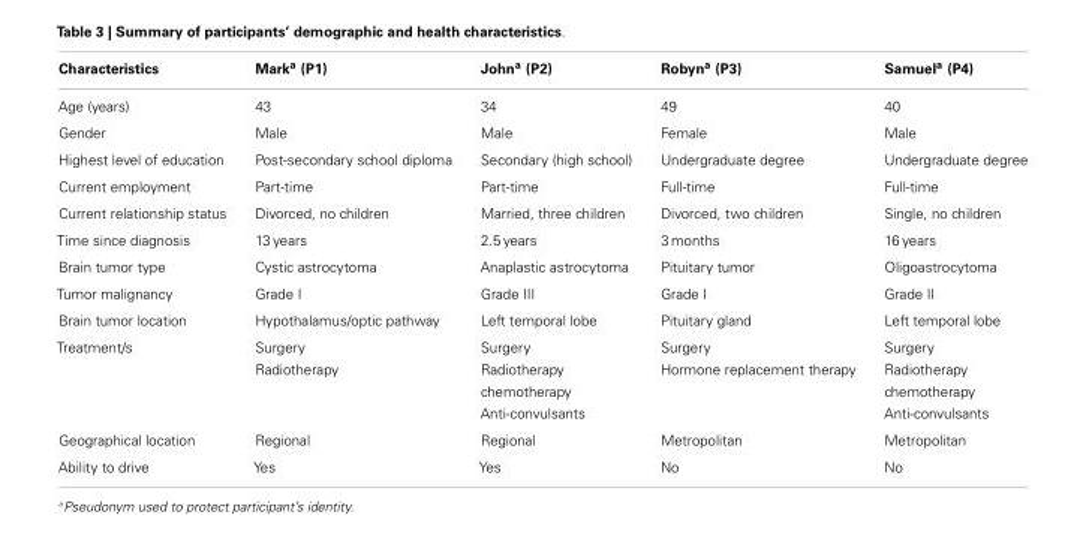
<table><thead><tr><td>Characteristics</td><td>Mark<sup>a</sup> (P1)</td><td>John<sup>a</sup> (P2)</td><td>Robyn<sup>a</sup> (P3)</td><td>Samuel<sup>a</sup> (P4)</td></tr></thead><tbody><tr><td>Age (years)</td><td>43</td><td>34</td><td>49</td><td>40</td></tr><tr><td>Gender</td><td>Male</td><td>Male</td><td>Female</td><td>Male</td></tr><tr><td>Highest level of education</td><td>Post-secondary school diploma</td><td>Secondary (high school)</td><td>Undergraduate degree</td><td>Undergraduate degree</td></tr><tr><td>Current employment</td><td>Part-time</td><td>Part-time</td><td>Full-time</td><td>Full-time</td></tr><tr><td>Current relationship status</td><td>Divorced, no children</td><td>Married, three children</td><td>Divorced, two children</td><td>Single, no children</td></tr><tr><td>Time since diagnosis</td><td>13 years</td><td>2.5 years</td><td>3 months</td><td>16 years</td></tr><tr><td>Brain tumor type</td><td>Cystic astrocytoma</td><td>Anaplastic astrocytoma</td><td>Pituitary tumor</td><td>Oligoastrocytoma</td></tr><tr><td>Tumor malignancy</td><td>Grade I</td><td>Grade III</td><td>Grade I</td><td>Grade II</td></tr><tr><td>Brain tumor location</td><td>Hypothalamus/optic pathway</td><td>Left temporal lobe</td><td>Pituitary gland</td><td>Left temporal lobe</td></tr><tr><td rowspan="4">Treatment/s</td><td>Surgery</td><td>Surgery</td><td>Surgery</td><td>Surgery</td></tr><tr><td>Radiotherapy</td><td>Radiotherapy</td><td>Hormone replacement therapy</td><td>Radiotherapy</td></tr><tr><td></td><td>chemotherapy</td><td></td><td>chemotherapy</td></tr><tr><td></td><td>Anti-convulsants</td><td></td><td>Anti-convulsants</td></tr><tr><td>Geographical location</td><td>Regional</td><td>Regional</td><td>Metropolitan</td><td>Metropolitan</td></tr><tr><td>Ability to drive</td><td>Yes</td><td>Yes</td><td>No</td><td>No</td></tr></tbody></table>